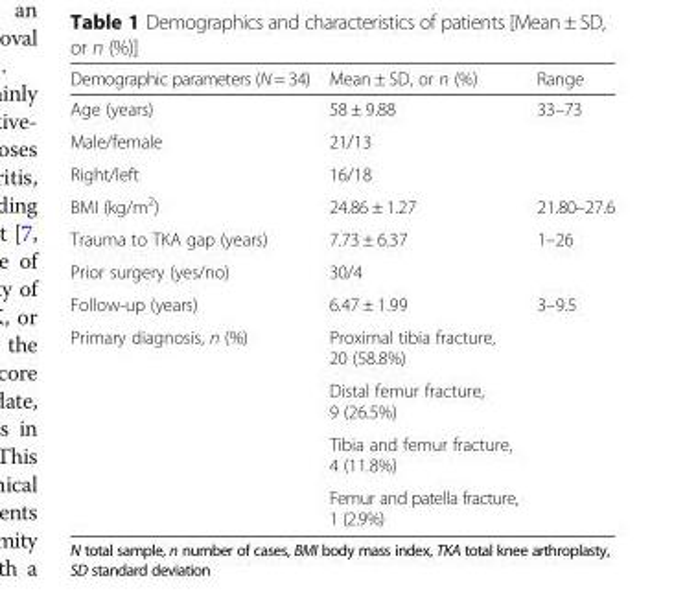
<table><thead><tr><td>Demographic parameters (N = 34)</td><td>Mean ± SD, or n (%)</td><td>Range</td></tr></thead><tbody><tr><td>Age (years)</td><td>58 ± 9.88</td><td>33–73</td></tr><tr><td>Male/female</td><td>21/13</td><td></td></tr><tr><td>Right/left</td><td>16/18</td><td></td></tr><tr><td>BMI (kg/m<sup>2</sup>)</td><td>24.86 ± 1.27</td><td>21.80–27.6</td></tr><tr><td>Trauma to TKA gap (years)</td><td>7.73 ± 6.37</td><td>1–26</td></tr><tr><td>Prior surgery (yes/no)</td><td>30/4</td><td></td></tr><tr><td>Follow-up (years)</td><td>6.47 ± 1.99</td><td>3–9.5</td></tr><tr><td rowspan="4">Primary diagnosis, n (%)</td><td>Proximal tibia fracture, 20 (58.8%)</td><td rowspan="4"></td></tr><tr><td>Distal femur fracture, 9 (26.5%)</td></tr><tr><td>Tibia and femur fracture, 4 (11.8%)</td></tr><tr><td>Femur and patella fracture, 1 (2.9%)</td></tr></tbody></table>